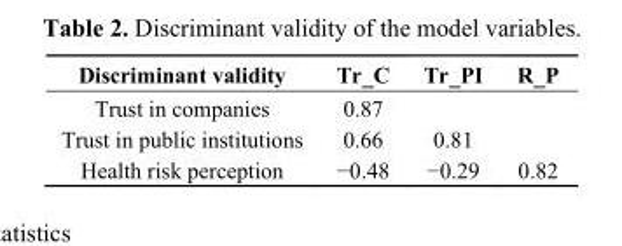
<table><thead><tr><td>Discriminant validity</td><td>Tr_C</td><td>Tr_PI</td><td>R_P</td></tr></thead><tbody><tr><td>Trust in companies</td><td>0.87</td><td></td><td></td></tr><tr><td>Trust in public institutions</td><td>0.66</td><td>0.81</td><td></td></tr><tr><td>Health risk perception</td><td>−0.48</td><td>−0.29</td><td>0.82</td></tr></tbody></table>